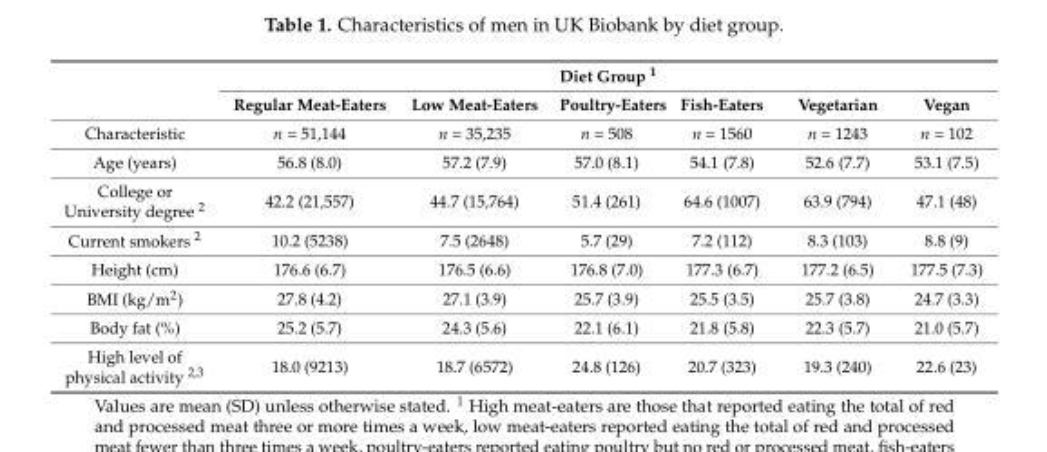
<table><thead><tr><td rowspan="2"></td><td colspan="6">Diet Group <sup>1</sup></td></tr><tr><td>Regular Meat-Eaters</td><td>Low Meat-Eaters</td><td>Poultry-Eaters</td><td>Fish-Eaters</td><td>Vegetarian</td><td>Vegan</td></tr></thead><tbody><tr><td>Characteristic</td><td>n = 51,144</td><td>n = 35,235</td><td>n = 508</td><td>n = 1560</td><td>n = 1243</td><td>n = 102</td></tr><tr><td>Age (years)</td><td>56.8 (8.0)</td><td>57.2 (7.9)</td><td>57.0 (8.1)</td><td>54.1 (7.8)</td><td>52.6 (7.7)</td><td>53.1 (7.5)</td></tr><tr><td>College or University degree <sup>2</sup></td><td>42.2 (21,557)</td><td>44.7 (15,764)</td><td>51.4 (261)</td><td>64.6 (1007)</td><td>63.9 (794)</td><td>47.1 (48)</td></tr><tr><td>Current smokers <sup>2</sup></td><td>10.2 (5238)</td><td>7.5 (2648)</td><td>5.7 (29)</td><td>7.2 (112)</td><td>8.3 (103)</td><td>8.8 (9)</td></tr><tr><td>Height (cm)</td><td>176.6 (6.7)</td><td>176.5 (6.6)</td><td>176.8 (7.0)</td><td>177.3 (6.7)</td><td>177.2 (6.5)</td><td>177.5 (7.3)</td></tr><tr><td>BMI (kg/m<sup>2</sup>)</td><td>27.8 (4.2)</td><td>27.1 (3.9)</td><td>25.7 (3.9)</td><td>25.5 (3.5)</td><td>25.7 (3.8)</td><td>24.7 (3.3)</td></tr><tr><td>Body fat (%)</td><td>25.2 (5.7)</td><td>24.3 (5.6)</td><td>22.1 (6.1)</td><td>21.8 (5.8)</td><td>22.3 (5.7)</td><td>21.0 (5.7)</td></tr><tr><td>High level of physical activity <sup>2,3</sup></td><td>18.0 (9213)</td><td>18.7 (6572)</td><td>24.8 (126)</td><td>20.7 (323)</td><td>19.3 (240)</td><td>22.6 (23)</td></tr></tbody></table>